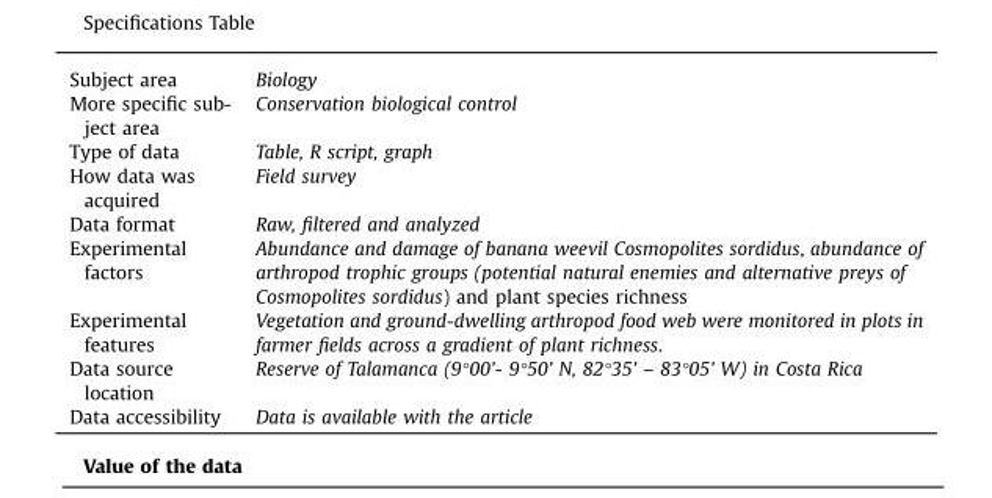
<table><tbody><tr><td>Subject area</td><td>Biology</td></tr><tr><td>More specific sub- ject area</td><td>Conservation biological control</td></tr><tr><td>Type of data</td><td>Table, R script, graph</td></tr><tr><td>How data was acquired</td><td>Field survey</td></tr><tr><td>Data format</td><td>Raw, filtered and analyzed</td></tr><tr><td>Experimental factors</td><td>Abundance and damage of banana weevil Cosmopolites sordidus, abundance of arthropod trophic groups (potential natural enemies and alternative preys of Cosmopolites sordidus) and plant species richness</td></tr><tr><td>Experimental features</td><td>Vegetation and ground-dwelling arthropod food web were monitored in plots in farmer fields across a gradient of plant richness.</td></tr><tr><td>Data source location</td><td>Reserve of Talamanca (9°00’- 9°50’ N, 82°35’ – 83°05’ W) in Costa Rica</td></tr><tr><td>Data accessibility</td><td>Data is available with the article</td></tr></tbody></table>